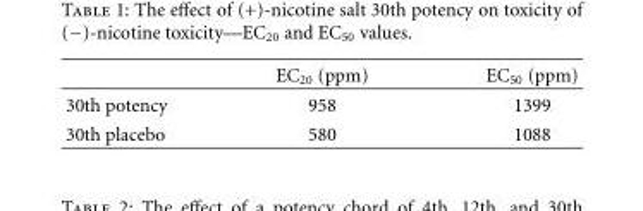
<table><thead><tr><td></td><td>EC<sub>20</sub> (ppm)</td><td>EC<sub>50</sub> (ppm)</td></tr></thead><tbody><tr><td>30th potency</td><td>958</td><td>1399</td></tr><tr><td>30th placebo</td><td>580</td><td>1088</td></tr></tbody></table>